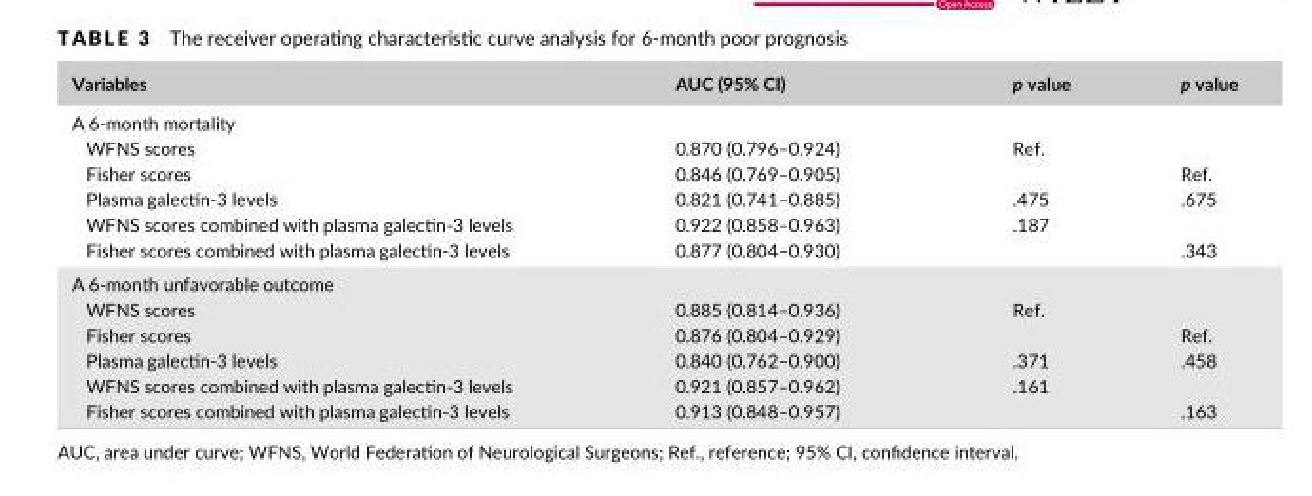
<table><thead><tr><td>Variables</td><td>AUC (95% CI)</td><td>p value</td><td>p value</td></tr></thead><tbody><tr><td colspan="4">A 6- month mortality</td></tr><tr><td>WFNS scores</td><td>0.870 (0.796–0.924)</td><td>Ref.</td><td></td></tr><tr><td>Fisher scores</td><td>0.846 (0.769–0.905)</td><td></td><td>Ref.</td></tr><tr><td>Plasma galectin- 3 levels</td><td>0.821 (0.741–0.885)</td><td>.475</td><td>.675</td></tr><tr><td>WFNS scores combined with plasma galectin- 3 levels</td><td>0.922 (0.858–0.963)</td><td>.187</td><td></td></tr><tr><td>Fisher scores combined with plasma galectin- 3 levels</td><td>0.877 (0.804–0.930)</td><td></td><td>.343</td></tr><tr><td colspan="4">A 6- month unfavorable outcome</td></tr><tr><td>WFNS scores</td><td>0.885 (0.814–0.936)</td><td>Ref.</td><td></td></tr><tr><td>Fisher scores</td><td>0.876 (0.804–0.929)</td><td></td><td>Ref.</td></tr><tr><td>Plasma galectin- 3 levels</td><td>0.840 (0.762–0.900)</td><td>.371</td><td>.458</td></tr><tr><td>WFNS scores combined with plasma galectin- 3 levels</td><td>0.921 (0.857–0.962)</td><td>.161</td><td></td></tr><tr><td>Fisher scores combined with plasma galectin- 3 levels</td><td>0.913 (0.848–0.957)</td><td></td><td>.163</td></tr></tbody></table>